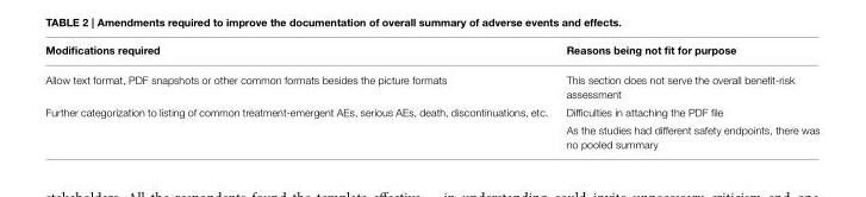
<table><thead><tr><td>Modifications required</td><td>Reasons being not fit for purpose</td></tr></thead><tbody><tr><td>Allow text format, PDF snapshots or other common formats besides the picture formats</td><td>This section does not serve the overall benefit-risk assessment</td></tr><tr><td rowspan="2">Further categorization to listing of common treatment-emergent AEs, serious AEs, death, discontinuations, etc.</td><td>Difficulties in attaching the PDF file</td></tr><tr><td>As the studies had different safety endpoints, there was no pooled summary</td></tr></tbody></table>